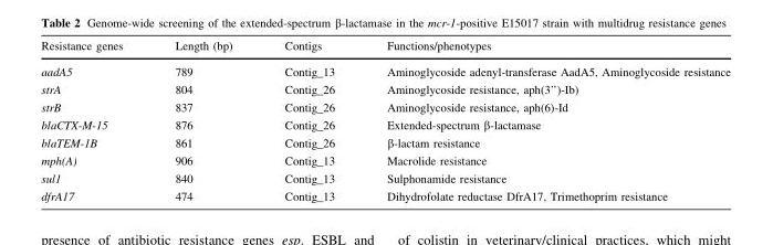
<table><thead><tr><td>Resistance genes</td><td>Length (bp)</td><td>Contigs</td><td>Functions/phenotypes</td></tr></thead><tbody><tr><td>aadA5</td><td>789</td><td>Contig_13</td><td>Aminoglycoside adenyl-transferase AadA5, Aminoglycoside resistance</td></tr><tr><td>strA</td><td>804</td><td>Contig_26</td><td>Aminoglycoside resistance, aph(3’’)-Ib)</td></tr><tr><td>strB</td><td>837</td><td>Contig_26</td><td>Aminoglycoside resistance, aph(6)-Id</td></tr><tr><td>blaCTX-M-15</td><td>876</td><td>Contig_26</td><td>Extended-spectrum β-lactamase</td></tr><tr><td>blaTEM-1B</td><td>861</td><td>Contig_26</td><td>β-lactam resistance</td></tr><tr><td>mph(A)</td><td>906</td><td>Contig_13</td><td>Macrolide resistance</td></tr><tr><td>sul1</td><td>840</td><td>Contig_13</td><td>Sulphonamide resistance</td></tr><tr><td>dfrA17</td><td>474</td><td>Contig_13</td><td>Dihydrofolate reductase DfrA17, Trimethoprim resistance</td></tr></tbody></table>